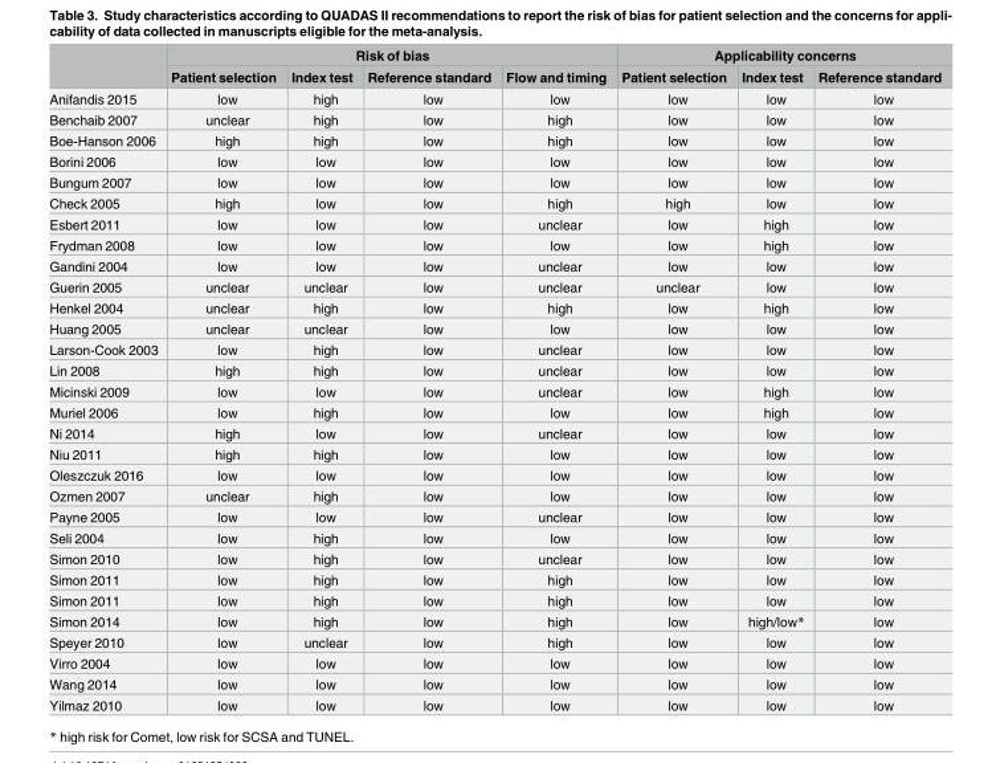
<table><thead><tr><td rowspan="2"></td><td colspan="4">Risk of bias</td><td colspan="3">Applicability concerns</td></tr><tr><td>Patient selection</td><td>Index test</td><td>Reference standard</td><td>Flow and timing</td><td>Patient selection</td><td>Index test</td><td>Reference standard</td></tr></thead><tbody><tr><td>Anifandis 2015</td><td>low</td><td>high</td><td>low</td><td>low</td><td>low</td><td>low</td><td>low</td></tr><tr><td>Benchaib 2007</td><td>unclear</td><td>high</td><td>low</td><td>high</td><td>low</td><td>low</td><td>low</td></tr><tr><td>Boe-Hanson 2006</td><td>high</td><td>high</td><td>low</td><td>high</td><td>low</td><td>low</td><td>low</td></tr><tr><td>Borini 2006</td><td>low</td><td>low</td><td>low</td><td>low</td><td>low</td><td>low</td><td>low</td></tr><tr><td>Bungum 2007</td><td>low</td><td>low</td><td>low</td><td>low</td><td>low</td><td>low</td><td>low</td></tr><tr><td>Check 2005</td><td>high</td><td>low</td><td>low</td><td>high</td><td>high</td><td>low</td><td>low</td></tr><tr><td>Esbert 2011</td><td>low</td><td>low</td><td>low</td><td>unclear</td><td>low</td><td>high</td><td>low</td></tr><tr><td>Frydman 2008</td><td>low</td><td>low</td><td>low</td><td>low</td><td>low</td><td>high</td><td>low</td></tr><tr><td>Gandini 2004</td><td>low</td><td>low</td><td>low</td><td>unclear</td><td>low</td><td>low</td><td>low</td></tr><tr><td>Guerin 2005</td><td>unclear</td><td>unclear</td><td>low</td><td>unclear</td><td>unclear</td><td>low</td><td>low</td></tr><tr><td>Henkel 2004</td><td>unclear</td><td>high</td><td>low</td><td>high</td><td>low</td><td>high</td><td>low</td></tr><tr><td>Huang 2005</td><td>unclear</td><td>unclear</td><td>low</td><td>low</td><td>low</td><td>low</td><td>low</td></tr><tr><td>Larson-Cook 2003</td><td>low</td><td>high</td><td>low</td><td>unclear</td><td>low</td><td>low</td><td>low</td></tr><tr><td>Lin 2008</td><td>high</td><td>high</td><td>low</td><td>unclear</td><td>low</td><td>low</td><td>low</td></tr><tr><td>Micinski 2009</td><td>low</td><td>low</td><td>low</td><td>unclear</td><td>low</td><td>high</td><td>low</td></tr><tr><td>Muriel 2006</td><td>low</td><td>high</td><td>low</td><td>low</td><td>low</td><td>high</td><td>low</td></tr><tr><td>Ni 2014</td><td>high</td><td>low</td><td>low</td><td>unclear</td><td>low</td><td>low</td><td>low</td></tr><tr><td>Niu 2011</td><td>high</td><td>high</td><td>low</td><td>low</td><td>low</td><td>low</td><td>low</td></tr><tr><td>Oleszczuk 2016</td><td>low</td><td>low</td><td>low</td><td>low</td><td>low</td><td>low</td><td>low</td></tr><tr><td>Ozmen 2007</td><td>unclear</td><td>high</td><td>low</td><td>low</td><td>low</td><td>low</td><td>low</td></tr><tr><td>Payne 2005</td><td>low</td><td>low</td><td>low</td><td>unclear</td><td>low</td><td>low</td><td>low</td></tr><tr><td>Seli 2004</td><td>low</td><td>high</td><td>low</td><td>low</td><td>low</td><td>low</td><td>low</td></tr><tr><td>Simon 2010</td><td>low</td><td>high</td><td>low</td><td>unclear</td><td>low</td><td>low</td><td>low</td></tr><tr><td>Simon 2011</td><td>low</td><td>high</td><td>low</td><td>high</td><td>low</td><td>low</td><td>low</td></tr><tr><td>Simon 2011</td><td>low</td><td>high</td><td>low</td><td>high</td><td>low</td><td>low</td><td>low</td></tr><tr><td>Simon 2014</td><td>low</td><td>high</td><td>low</td><td>high</td><td>low</td><td>high/low*</td><td>low</td></tr><tr><td>Speyer 2010</td><td>low</td><td>unclear</td><td>low</td><td>high</td><td>low</td><td>low</td><td>low</td></tr><tr><td>Virro 2004</td><td>low</td><td>low</td><td>low</td><td>low</td><td>low</td><td>low</td><td>low</td></tr><tr><td>Wang 2014</td><td>low</td><td>low</td><td>low</td><td>low</td><td>low</td><td>low</td><td>low</td></tr><tr><td>Yilmaz 2010</td><td>low</td><td>low</td><td>low</td><td>low</td><td>low</td><td>low</td><td>low</td></tr></tbody></table>